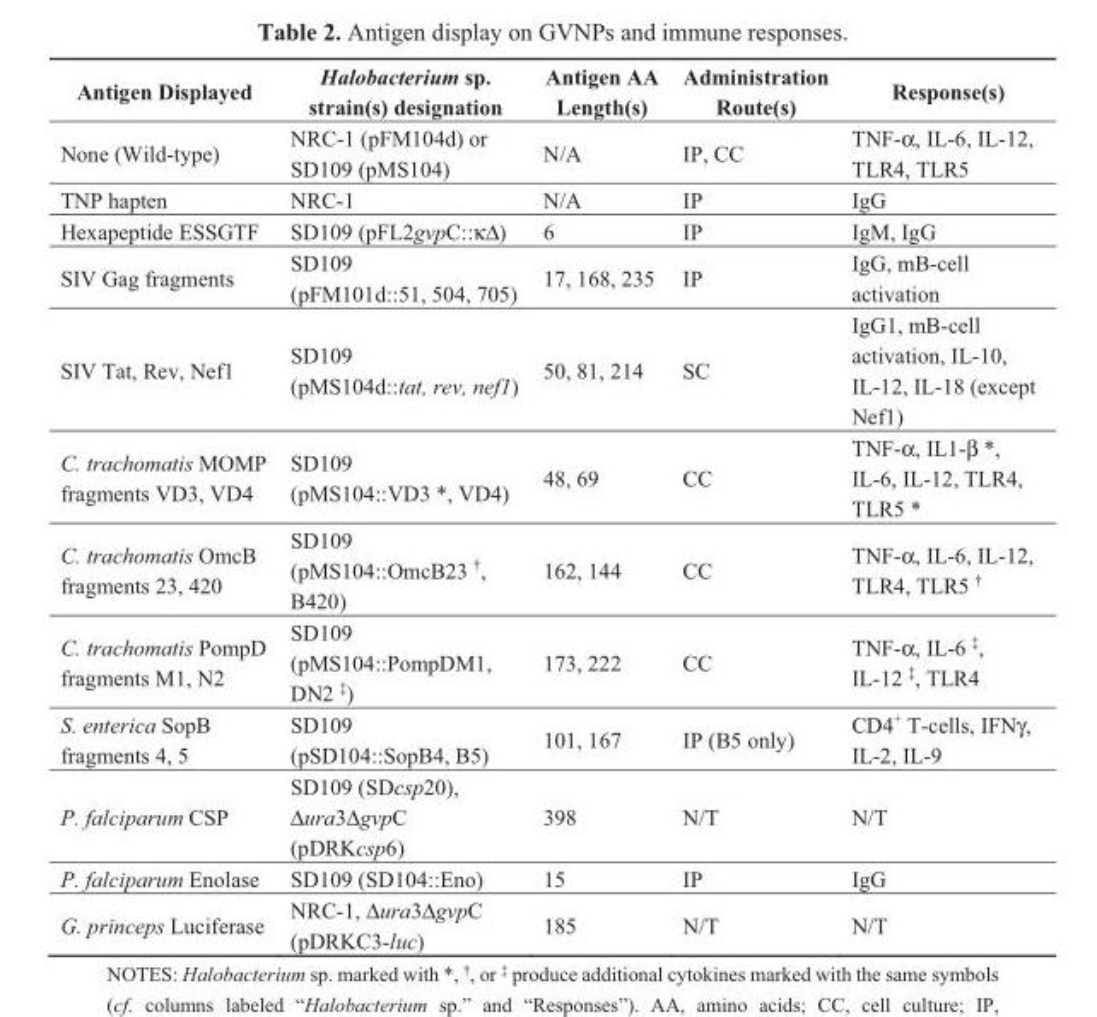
<table><thead><tr><td>Antigen Displayed</td><td>Halobacterium sp. strain(s) designation</td><td>Antigen AA Length(s)</td><td>Administration Route(s)</td><td>Response(s)</td></tr></thead><tbody><tr><td>None (Wild-type)</td><td>NRC-1 (pFM104d) or SD109 (pMS104)</td><td>N/A</td><td>IP, CC</td><td>TNF-α, IL-6, IL-12, TLR4, TLR5</td></tr><tr><td>TNP hapten</td><td>NRC-1</td><td>N/A</td><td>IP</td><td>IgG</td></tr><tr><td>Hexapeptide ESSGTF</td><td>SD109 (pFL2gvpC::κΔ)</td><td>6</td><td>IP</td><td>IgM, IgG</td></tr><tr><td>SIV Gag fragments</td><td>SD109 (pFM101d::51, 504, 705)</td><td>17, 168, 235</td><td>IP</td><td>IgG, mB-cell activation</td></tr><tr><td>SIV Tat, Rev, Nef1</td><td>SD109 (pMS104d::tat, rev, nef1)</td><td>50, 81, 214</td><td>SC</td><td>IgG1, mB-cell activation, IL-10, IL-12, IL-18 (except Nef1)</td></tr><tr><td>C. trachomatis MOMP fragments VD3, VD4</td><td>SD109 (pMS104::VD3 *, VD4)</td><td>48, 69</td><td>CC</td><td>TNF-α, IL1-β *, IL-6, IL-12, TLR4, TLR5 *</td></tr><tr><td>C. trachomatis OmcB fragments 23, 420</td><td>SD109 (pMS104::OmcB23 <sup>†</sup>, B420)</td><td>162, 144</td><td>CC</td><td>TNF-α, IL-6, IL-12, TLR4, TLR5 <sup>†</sup></td></tr><tr><td>C. trachomatis PompD fragments M1, N2</td><td>SD109 (pMS104::PompDM1, DN2 <sup>‡</sup>)</td><td>173, 222</td><td>CC</td><td>TNF-α, IL-6 <sup>‡</sup>, IL-12 <sup>‡</sup>, TLR4</td></tr><tr><td>S. enterica SopB fragments 4, 5</td><td>SD109 (pSD104::SopB4, B5)</td><td>101, 167</td><td>IP (B5 only)</td><td>CD4<sup>+</sup> T-cells, IFNγ, IL-2, IL-9</td></tr><tr><td>P. falciparum CSP</td><td>SD109 (SDcsp20), Δura3ΔgvpC (pDRKcsp6)</td><td>398</td><td>N/T</td><td>N/T</td></tr><tr><td>P. falciparum Enolase</td><td>SD109 (SD104::Eno)</td><td>15</td><td>IP</td><td>IgG</td></tr><tr><td>G. princeps Luciferase</td><td>NRC-1, Δura3ΔgvpC (pDRKC3-luc)</td><td>185</td><td>N/T</td><td>N/T</td></tr></tbody></table>